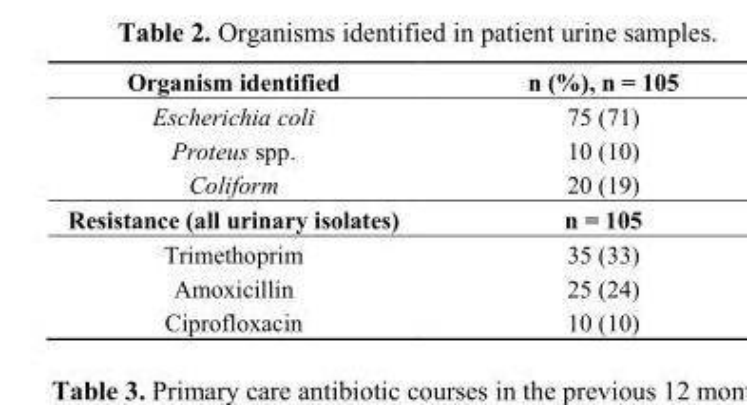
<table><tbody><tr><td>Organism identified</td><td>n (%), n = 105</td></tr><tr><td>Escherichia coli</td><td>75 (71)</td></tr><tr><td>Proteus spp.</td><td>10 (10)</td></tr><tr><td>Coliform</td><td>20 (19)</td></tr><tr><td>Resistance (all urinary isolates)</td><td>n = 105</td></tr><tr><td>Trimethoprim</td><td>35 (33)</td></tr><tr><td>Amoxicillin</td><td>25 (24)</td></tr><tr><td>Ciprofloxacin</td><td>10 (10)</td></tr></tbody></table>